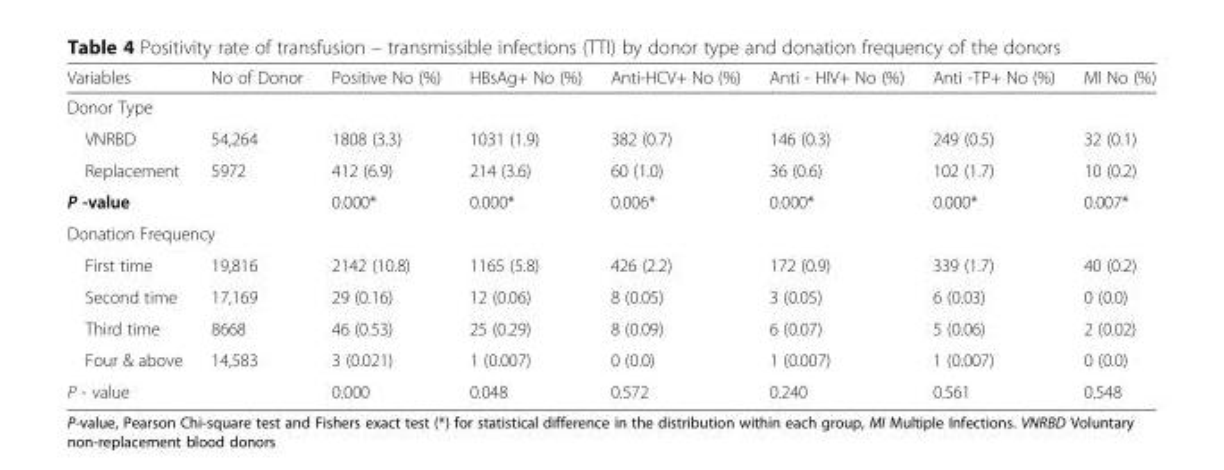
<table><thead><tr><td>Variables</td><td>No of Donor</td><td>Positive No (%)</td><td>HBsAg+ No (%)</td><td>Anti-HCV+ No (%)</td><td>Anti - HIV+ No (%)</td><td>Anti -TP+ No (%)</td><td>MI No (%)</td></tr></thead><tbody><tr><td colspan="8">Donor Type</td></tr><tr><td>VNRBD</td><td>54,264</td><td>1808 (3.3)</td><td>1031 (1.9)</td><td>382 (0.7)</td><td>146 (0.3)</td><td>249 (0.5)</td><td>32 (0.1)</td></tr><tr><td>Replacement</td><td>5972</td><td>412 (6.9)</td><td>214 (3.6)</td><td>60 (1.0)</td><td>36 (0.6)</td><td>102 (1.7)</td><td>10 (0.2)</td></tr><tr><td>P -value</td><td></td><td>0.000*</td><td>0.000*</td><td>0.006*</td><td>0.000*</td><td>0.000*</td><td>0.007*</td></tr><tr><td colspan="8">Donation Frequency</td></tr><tr><td>First time</td><td>19,816</td><td>2142 (10.8)</td><td>1165 (5.8)</td><td>426 (2.2)</td><td>172 (0.9)</td><td>339 (1.7)</td><td>40 (0.2)</td></tr><tr><td>Second time</td><td>17,169</td><td>29 (0.16)</td><td>12 (0.06)</td><td>8 (0.05)</td><td>3 (0.05)</td><td>6 (0.03)</td><td>0 (0.0)</td></tr><tr><td>Third time</td><td>8668</td><td>46 (0.53)</td><td>25 (0.29)</td><td>8 (0.09)</td><td>6 (0.07)</td><td>5 (0.06)</td><td>2 (0.02)</td></tr><tr><td>Four &amp; above</td><td>14,583</td><td>3 (0.021)</td><td>1 (0.007)</td><td>0 (0.0)</td><td>1 (0.007)</td><td>1 (0.007)</td><td>0 (0.0)</td></tr><tr><td>P - value</td><td></td><td>0.000</td><td>0.048</td><td>0.572</td><td>0.240</td><td>0.561</td><td>0.548</td></tr></tbody></table>